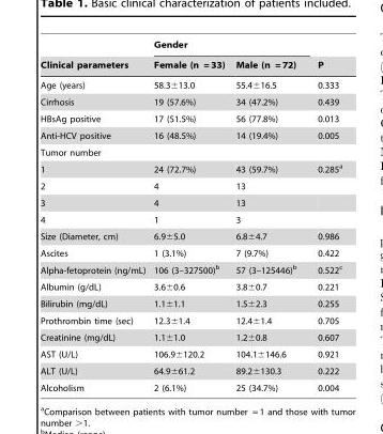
<table><thead><tr><td rowspan="2">Clinical parameters</td><td colspan="2">Gender</td><td rowspan="2">P</td></tr><tr><td>Female (n = 33)</td><td>Male (n = 72)</td></tr></thead><tbody><tr><td>Age (years)</td><td>58.3±13.0</td><td>55.4±16.5</td><td>0.333</td></tr><tr><td>Cirrhosis</td><td>19 (57.6%)</td><td>34 (47.2%)</td><td>0.439</td></tr><tr><td>HBsAg positive</td><td>17 (51.5%)</td><td>56 (77.8%)</td><td>0.013</td></tr><tr><td>Anti-HCV positive</td><td>16 (48.5%)</td><td>14 (19.4%)</td><td>0.005</td></tr><tr><td colspan="4">Tumor number</td></tr><tr><td>1</td><td>24 (72.7%)</td><td>43 (59.7%)</td><td>0.285<sup>a</sup></td></tr><tr><td>2</td><td>4</td><td>13</td><td></td></tr><tr><td>3</td><td>4</td><td>13</td><td></td></tr><tr><td>4</td><td>1</td><td>3</td><td></td></tr><tr><td>Size (Diameter, cm)</td><td>6.9±5.0</td><td>6.8±4.7</td><td>0.986</td></tr><tr><td>Ascites</td><td>1 (3.1%)</td><td>7 (9.7%)</td><td>0.422</td></tr><tr><td>Alpha-fetoprotein (ng/mL)</td><td>106 (3–327500)<sup>b</sup></td><td>57 (3–125446)<sup>b</sup></td><td>0.522<sup>c</sup></td></tr><tr><td>Albumin (g/dL)</td><td>3.6±0.6</td><td>3.8±0.7</td><td>0.221</td></tr><tr><td>Bilirubin (mg/dL)</td><td>1.1±1.1</td><td>1.5±2.3</td><td>0.255</td></tr><tr><td>Prothrombin time (sec)</td><td>12.3±1.4</td><td>12.4±1.4</td><td>0.705</td></tr><tr><td>Creatinine (mg/dL)</td><td>1.1±1.0</td><td>1.2±0.8</td><td>0.607</td></tr><tr><td>AST (U/L)</td><td>106.9±120.2</td><td>104.1±146.6</td><td>0.921</td></tr><tr><td>ALT (U/L)</td><td>64.9±61.2</td><td>89.2±130.3</td><td>0.222</td></tr><tr><td>Alcoholism</td><td>2 (6.1%)</td><td>25 (34.7%)</td><td>0.004</td></tr></tbody></table>